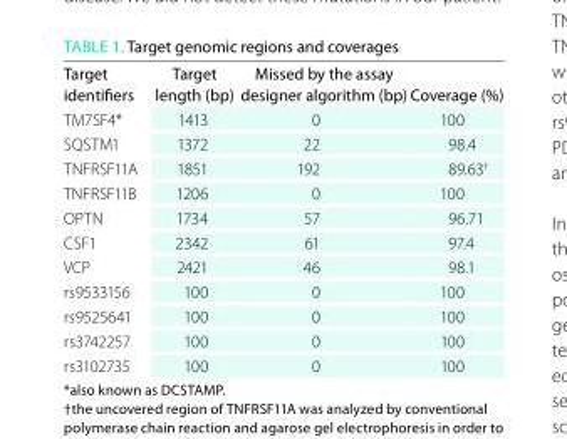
<table><thead><tr><td>target identifiers</td><td>target length (bp)</td><td>missed by the assay designer algorithm (bp)</td><td>Coverage (%)</td></tr></thead><tbody><tr><td>TM7SF4*</td><td>1413</td><td>0</td><td>100</td></tr><tr><td>SQSTM1</td><td>1372</td><td>22</td><td>98.4</td></tr><tr><td>TNFRSF11A</td><td>1851</td><td>192</td><td>89.63<sup>†</sup></td></tr><tr><td>TNFRSF11B</td><td>1206</td><td>0</td><td>100</td></tr><tr><td>OPTN</td><td>1734</td><td>57</td><td>96.71</td></tr><tr><td>CSF1</td><td>2342</td><td>61</td><td>97.4</td></tr><tr><td>VCP</td><td>2421</td><td>46</td><td>98.1</td></tr><tr><td>rs9533156</td><td>100</td><td>0</td><td>100</td></tr><tr><td>rs9525641</td><td>100</td><td>0</td><td>100</td></tr><tr><td>rs3742257</td><td>100</td><td>0</td><td>100</td></tr><tr><td>rs3102735</td><td>100</td><td>0</td><td>100</td></tr></tbody></table>